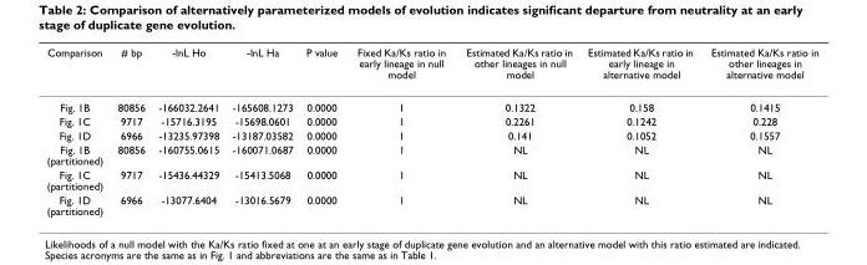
<table><thead><tr><td>Comparison</td><td># bp</td><td>-lnL Ho</td><td>-lnL Ha</td><td>P value</td><td>Fixed Ka/Ks ratio in early lineage in null model</td><td>Estimated Ka/Ks ratio in other lineages in null model</td><td>Estimated Ka/Ks ratio in early lineage in alternative model</td><td>Estimated Ka/Ks ratio in other lineages in alternative model</td></tr></thead><tbody><tr><td>Fig. 1B</td><td>80856</td><td>-166032.2641</td><td>-165608.1273</td><td>0.0000</td><td>1</td><td>0.1322</td><td>0.158</td><td>0.1415</td></tr><tr><td>Fig. 1C</td><td>9717</td><td>-15716.3195</td><td>-15698.0601</td><td>0.0000</td><td>1</td><td>0.2261</td><td>0.1242</td><td>0.228</td></tr><tr><td>Fig. 1D</td><td>6966</td><td>-13235.97398</td><td>-13187.03582</td><td>0.0000</td><td>1</td><td>0.141</td><td>0.1052</td><td>0.1557</td></tr><tr><td>Fig. 1B (partitioned)</td><td>80856</td><td>-160755.0615</td><td>-160071.0687</td><td>0.0000</td><td>1</td><td>NL</td><td>NL</td><td>NL</td></tr><tr><td>Fig. 1C (partitioned)</td><td>9717</td><td>-15436.44329</td><td>-15413.5068</td><td>0.0000</td><td>1</td><td>NL</td><td>NL</td><td>NL</td></tr><tr><td>Fig. 1D (partitioned)</td><td>6966</td><td>-13077.6404</td><td>-13016.5679</td><td>0.0000</td><td>1</td><td>NL</td><td>NL</td><td>NL</td></tr></tbody></table>